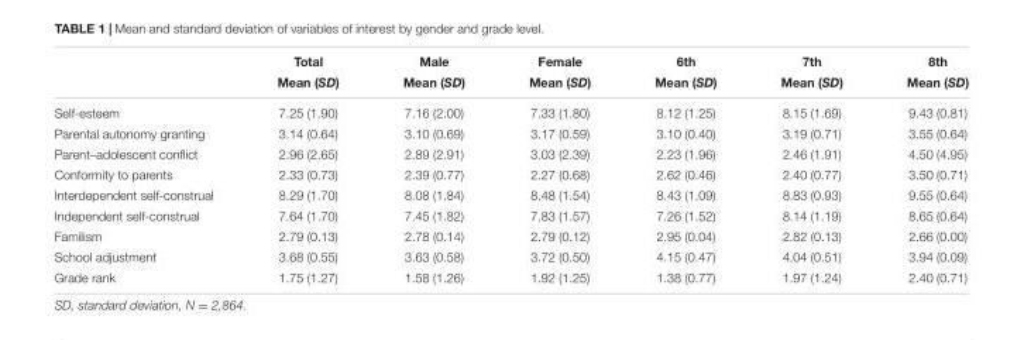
<table><thead><tr><td rowspan="2"></td><td rowspan="2">Total Mean (SD)</td><td rowspan="2">Male Mean (SD)</td><td rowspan="2">Female Mean (SD)</td><td rowspan="2">6th Mean (SD)</td><td rowspan="2">7th Mean (SD)</td><td rowspan="2">8th Mean (SD)</td></tr><tr></tr></thead><tbody><tr><td>Self-esteem</td><td>7.25 (1.90)</td><td>7.16 (2.00)</td><td>7.33 (1.80)</td><td>8.12 (1.25)</td><td>8.15 (1.69)</td><td>9.43 (0.81)</td></tr><tr><td>Parental autonomy granting</td><td>3.14 (0.64)</td><td>3.10 (0.69)</td><td>3.17 (0.59)</td><td>3.10 (0.40)</td><td>3.19 (0.71)</td><td>3.55 (0.64)</td></tr><tr><td>Parent–adolescent conflict</td><td>2.96 (2.65)</td><td>2.89 (2.91)</td><td>3.03 (2.39)</td><td>2.23 (1.96)</td><td>2.46 (1.91)</td><td>4.50 (4.95)</td></tr><tr><td>Conformity to parents</td><td>2.33 (0.73)</td><td>2.39 (0.77)</td><td>2.27 (0.68)</td><td>2.62 (0.46)</td><td>2.40 (0.77)</td><td>3.50 (0.71)</td></tr><tr><td>Interdependent self-construal</td><td>8.29 (1.70)</td><td>8.08 (1.84)</td><td>8.48 (1.54)</td><td>8.43 (1.09)</td><td>8.83 (0.93)</td><td>9.55 (0.64)</td></tr><tr><td>Independent self-construal</td><td>7.64 (1.70)</td><td>7.45 (1.82)</td><td>7.83 (1.57)</td><td>7.26 (1.52)</td><td>8.14 (1.19)</td><td>8.65 (0.64)</td></tr><tr><td>Familism</td><td>2.79 (0.13)</td><td>2.78 (0.14)</td><td>2.79 (0.12)</td><td>2.95 (0.04)</td><td>2.82 (0.13)</td><td>2.66 (0.00)</td></tr><tr><td>School adjustment</td><td>3.68 (0.55)</td><td>3.63 (0.58)</td><td>3.72 (0.50)</td><td>4.15 (0.47)</td><td>4.04 (0.51)</td><td>3.94 (0.09)</td></tr><tr><td>Grade rank</td><td>1.75 (1.27)</td><td>1.58 (1.26)</td><td>1.92 (1.25)</td><td>1.38 (0.77)</td><td>1.97 (1.24)</td><td>2.40 (0.71)</td></tr></tbody></table>